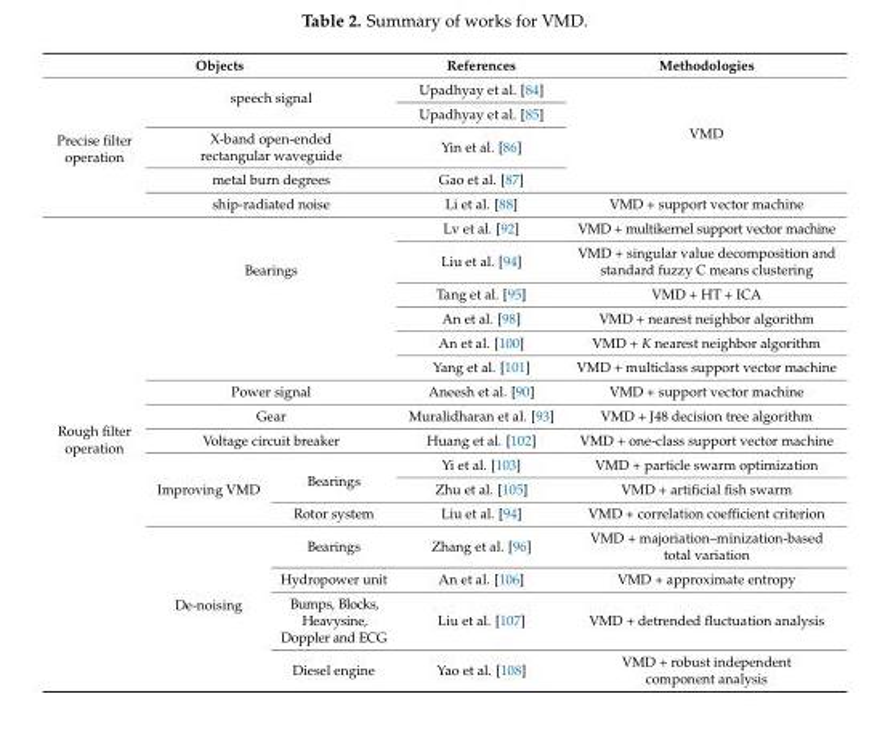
<table><thead><tr><td colspan="3">Objects</td><td>References</td><td>Methodologies</td></tr></thead><tbody><tr><td rowspan="5">Precise filter operation</td><td rowspan="2" colspan="2">speech signal</td><td>Upadhyay et al. [84]</td><td rowspan="4">VMD</td></tr><tr><td>Upadhyay et al. [85]</td></tr><tr><td colspan="2">X-band open-ended rectangular waveguide</td><td>Yin et al. [86]</td></tr><tr><td colspan="2">metal burn degrees</td><td>Gao et al. [87]</td></tr><tr><td colspan="2">ship-radiated noise</td><td>Li et al. [88]</td><td>VMD + support vector machine</td></tr><tr><td rowspan="16">Rough filter operation</td><td rowspan="6" colspan="2">Bearings</td><td>Lv et al. [92]</td><td>VMD + multikernel support vector machine</td></tr><tr><td>Liu et al. [94]</td><td>VMD + singular value decomposition and standard fuzzy C means clustering</td></tr><tr><td>Tang et al. [95]</td><td>VMD + HT + ICA</td></tr><tr><td>An et al. [98]</td><td>VMD + nearest neighbor algorithm</td></tr><tr><td>An et al. [100]</td><td>VMD + K nearest neighbor algorithm</td></tr><tr><td>Yang et al. [101]</td><td>VMD + multiclass support vector machine</td></tr><tr><td colspan="2">Power signal</td><td>Aneesh et al. [90]</td><td>VMD + support vector machine</td></tr><tr><td colspan="2">Gear</td><td>Muralidharan et al. [93]</td><td>VMD + J48 decision tree algorithm</td></tr><tr><td colspan="2">Voltage circuit breaker</td><td>Huang et al. [102]</td><td>VMD + one-class support vector machine</td></tr><tr><td rowspan="3">Improving VMD</td><td rowspan="2">Bearings</td><td>Yi et al. [103]</td><td>VMD + particle swarm optimization</td></tr><tr><td>Zhu et al. [105]</td><td>VMD + artificial fish swarm</td></tr><tr><td>Rotor system</td><td>Liu et al. [94]</td><td>VMD + correlation coefficient criterion</td></tr><tr><td rowspan="4">De-noising</td><td>Bearings</td><td>Zhang et al. [96]</td><td>VMD + majoriation–minization-based total variation</td></tr><tr><td>Hydropower unit</td><td>An et al. [106]</td><td>VMD + approximate entropy</td></tr><tr><td>Bumps, Blocks, Heavysine, Doppler and ECG</td><td>Liu et al. [107]</td><td>VMD + detrended fluctuation analysis</td></tr><tr><td>Diesel engine</td><td>Yao et al. [108]</td><td>VMD + robust independent component analysis</td></tr></tbody></table>